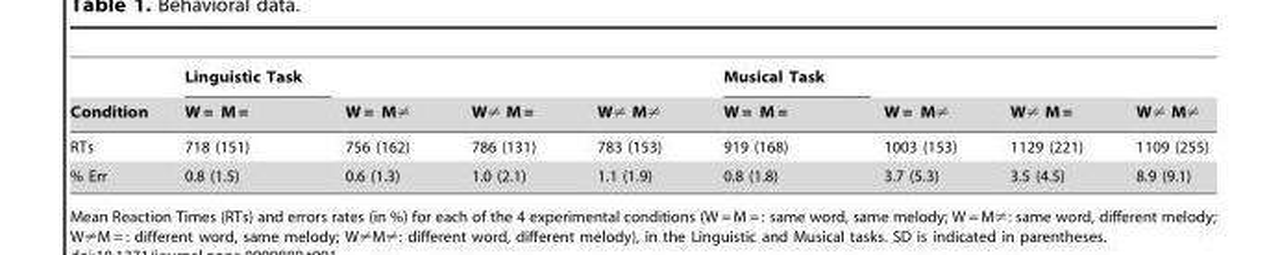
<table><thead><tr><td rowspan="2">Condition</td><td rowspan="2">Linguistic Task W = M =</td><td rowspan="2">W = M≠</td><td rowspan="2">W≠ M =</td><td rowspan="2">W≠ M≠</td><td rowspan="2">Musical Task W = M =</td><td rowspan="2">W = M≠</td><td rowspan="2">W≠ M =</td><td rowspan="2">W≠ M≠</td></tr><tr></tr></thead><tbody><tr><td>RTs</td><td>718 (151)</td><td>756 (162)</td><td>786 (131)</td><td>783 (153)</td><td>919 (168)</td><td>1003 (153)</td><td>1129 (221)</td><td>1109 (255)</td></tr><tr><td>% Err</td><td>0.8 (1.5)</td><td>0.6 (1.3)</td><td>1.0 (2.1)</td><td>1.1 (1.9)</td><td>0.8 (1.8)</td><td>3.7 (5.3)</td><td>3.5 (4.5)</td><td>8.9 (9.1)</td></tr></tbody></table>